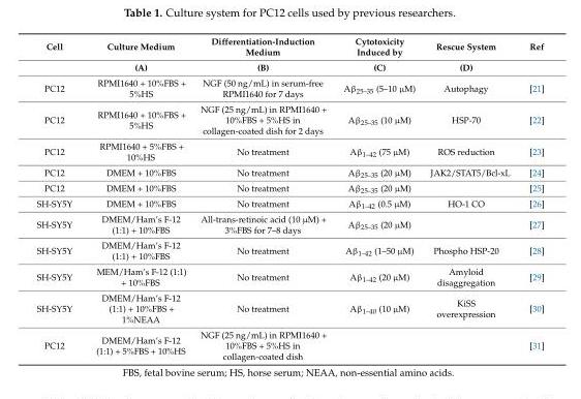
<table><thead><tr><td rowspan="2">Cell</td><td rowspan="2">Culture Medium (A)</td><td rowspan="2">Differentiation-Induction Medium (B)</td><td rowspan="2">Cytotoxicity Induced by (C)</td><td rowspan="2">Rescue System (D)</td><td rowspan="2">Ref</td></tr><tr></tr></thead><tbody><tr><td>PC12</td><td>RPMI1640 + 10%FBS + 5%HS</td><td>NGF (50 ng/mL) in serum-free RPMI1640 for 7 days</td><td>Aβ<sub>25–35</sub> (5–10 µM)</td><td>Autophagy</td><td>[21]</td></tr><tr><td>PC12</td><td>RPMI1640 + 10%FBS + 5%HS</td><td>NGF (25 ng/mL) in RPMI1640 + 10%FBS + 5%HS in collagen-coated dish for 2 days</td><td>Aβ<sub>25–35</sub> (10 µM)</td><td>HSP-70</td><td>[22]</td></tr><tr><td>PC12</td><td>RPMI1640 + 5%FBS + 10%HS</td><td>No treatment</td><td>Aβ<sub>1–42</sub> (75 µM)</td><td>ROS reduction</td><td>[23]</td></tr><tr><td>PC12</td><td>DMEM + 10%FBS</td><td>No treatment</td><td>Aβ<sub>25–35</sub> (20 µM)</td><td>JAK2/STAT5/Bcl-xL</td><td>[24]</td></tr><tr><td>PC12</td><td>DMEM + 10%FBS</td><td>No treatment</td><td>Aβ<sub>25–35</sub> (20 µM)</td><td></td><td>[25]</td></tr><tr><td>SH-SY5Y</td><td>DMEM + 10%FBS</td><td>No treatment</td><td>Aβ<sub>1–42</sub> (0.5 µM)</td><td>HO-1 CO</td><td>[26]</td></tr><tr><td>SH-SY5Y</td><td>DMEM/Ham’s F-12 (1:1) + 10%FBS</td><td>All-trans-retinoic acid (10 µM) + 3%FBS for 7–8 days</td><td>Aβ<sub>25–35</sub> (20 µM)</td><td></td><td>[27]</td></tr><tr><td>SH-SY5Y</td><td>DMEM/Ham’s F-12 (1:1) + 10%FBS</td><td>No treatment</td><td>Aβ<sub>1–42</sub> (1–50 µM)</td><td>Phospho HSP-20</td><td>[28]</td></tr><tr><td>SH-SY5Y</td><td>MEM/Ham’s F-12 (1:1) + 10%FBS</td><td>No treatment</td><td>Aβ<sub>1–42</sub> (20 µM)</td><td>Amyloid disaggregation</td><td>[29]</td></tr><tr><td>SH-SY5Y</td><td>DMEM/Ham’s F-12 (1:1) + 10%FBS + 1%NEAA</td><td>No treatment</td><td>Aβ<sub>1–40</sub> (10 µM)</td><td>KiSS overexpression</td><td>[30]</td></tr><tr><td>PC12</td><td>DMEM/Ham’s F-12 (1:1) + 5%FBS + 10%HS</td><td>NGF (25 ng/mL) in RPMI1640 + 10%FBS + 5%HS in collagen-coated dish</td><td></td><td></td><td>[31]</td></tr></tbody></table>